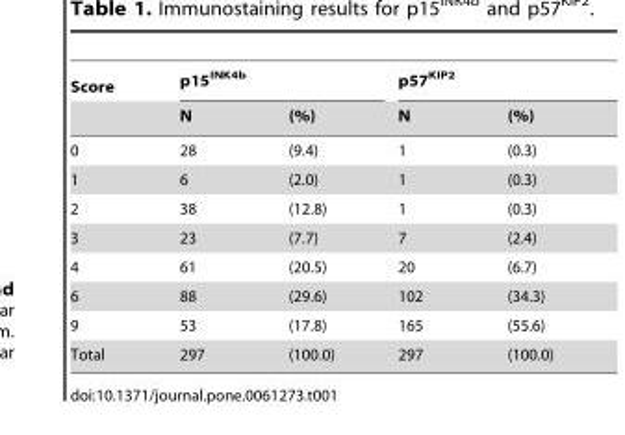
<table><thead><tr><td rowspan="2">Score</td><td colspan="2">p15<sup>INK4b</sup></td><td colspan="2">p57<sup>KIP2</sup></td></tr><tr><td>N</td><td>(%)</td><td>N</td><td>(%)</td></tr></thead><tbody><tr><td>0</td><td>28</td><td>(9.4)</td><td>1</td><td>(0.3)</td></tr><tr><td>1</td><td>6</td><td>(2.0)</td><td>1</td><td>(0.3)</td></tr><tr><td>2</td><td>38</td><td>(12.8)</td><td>1</td><td>(0.3)</td></tr><tr><td>3</td><td>23</td><td>(7.7)</td><td>7</td><td>(2.4)</td></tr><tr><td>4</td><td>61</td><td>(20.5)</td><td>20</td><td>(6.7)</td></tr><tr><td>6</td><td>88</td><td>(29.6)</td><td>102</td><td>(34.3)</td></tr><tr><td>9</td><td>53</td><td>(17.8)</td><td>165</td><td>(55.6)</td></tr><tr><td>Total</td><td>297</td><td>(100.0)</td><td>297</td><td>(100.0)</td></tr></tbody></table>